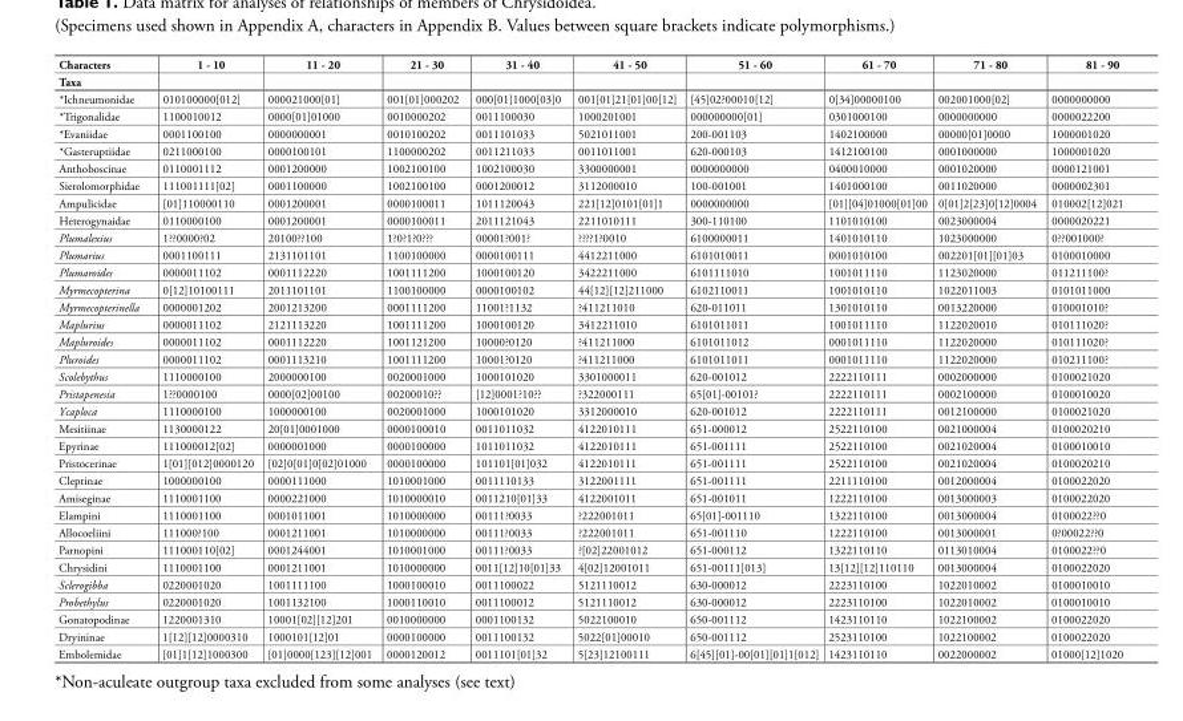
<table><tbody><tr><td>Characters</td><td>1 - 10</td><td>11 - 20</td><td>21 - 30</td><td>31 - 40</td><td>41 - 50</td><td>51 - 60</td><td>61 - 70</td><td>71 - 80</td><td>81 - 90</td></tr><tr><td colspan="10">Taxa</td></tr><tr><td>*Ichneumonidae</td><td>010100000[012]</td><td>000021000[01]</td><td>001[01]000202</td><td>000[01]1000[03]0</td><td>001[01]21[01]00[12]</td><td>[45]02?00010[12]</td><td>0[34]00000100</td><td>002001000[02]</td><td>0000000000</td></tr><tr><td>*Trigonalidae</td><td>1100010012</td><td>0000[01]01000</td><td>0010000202</td><td>0011100030</td><td>1000201001</td><td>000000000[01]</td><td>0301000100</td><td>0000000000</td><td>0000022200</td></tr><tr><td>*Evaniidae</td><td>0001100100</td><td>0000000001</td><td>0010100202</td><td>0011101033</td><td>5021011001</td><td>200-001103</td><td>1402100000</td><td>00000[01]0000</td><td>1000001020</td></tr><tr><td>*Gasteruptiidae</td><td>0211000100</td><td>0000100101</td><td>1100000202</td><td>0011211033</td><td>0011011001</td><td>620-000103</td><td>1412100100</td><td>0001000000</td><td>1000001020</td></tr><tr><td>Anthoboscinae</td><td>0110001112</td><td>0001200000</td><td>1002100100</td><td>1002100030</td><td>3300000001</td><td>0000000000</td><td>0400010000</td><td>0001020000</td><td>0000121001</td></tr><tr><td>Sierolomorphidae</td><td>111001111[02]</td><td>0001100000</td><td>1002100100</td><td>0001200012</td><td>3112000010</td><td>100-001001</td><td>1401000100</td><td>0011020000</td><td>0000002301</td></tr><tr><td>Ampulicidae</td><td>[01]110000110</td><td>0001200001</td><td>0000100011</td><td>1011120043</td><td>221[12]0101[01]1</td><td>0000000000</td><td>[01][04]01000[01]00</td><td>0[01]2[23]0[12]0004</td><td>010002[12]021</td></tr><tr><td>Heterogynaidae</td><td>0110000100</td><td>0001200001</td><td>0000100011</td><td>2011121043</td><td>2211010111</td><td>300-110100</td><td>1101010100</td><td>0023000004</td><td>0000020221</td></tr><tr><td>Plumalexius</td><td>1??0000?02</td><td>20100??100</td><td>1?0?1?0???</td><td>00001?001?</td><td>????1?0010</td><td>6100000011</td><td>1401010110</td><td>1023000000</td><td>0??001000?</td></tr><tr><td>Plumarius</td><td>0001100111</td><td>2131101101</td><td>1100100000</td><td>0000100111</td><td>4412211000</td><td>6101010011</td><td>0001010100</td><td>002201[01][01]03</td><td>0100010000</td></tr><tr><td>Plumaroides</td><td>0000011102</td><td>0001112220</td><td>1001111200</td><td>1000100120</td><td>3422211000</td><td>6101111010</td><td>1001011110</td><td>1123020000</td><td>011211100?</td></tr><tr><td>Myrmecopterina</td><td>0[12]10100111</td><td>2011101101</td><td>1100100000</td><td>0000100102</td><td>44[12][12]211000</td><td>6102110011</td><td>1001010110</td><td>1022011003</td><td>0101011000</td></tr><tr><td>Myrmecopterinella</td><td>0000001202</td><td>2001213200</td><td>0001111200</td><td>11001?1132</td><td>?411211010</td><td>620-011011</td><td>1301010110</td><td>0013220000</td><td>010001010?</td></tr><tr><td>Maplurius</td><td>0000011102</td><td>2121113220</td><td>1001111200</td><td>1000100120</td><td>3412211010</td><td>6101011011</td><td>1001011110</td><td>1122020010</td><td>010111020?</td></tr><tr><td>Mapluroides</td><td>0000011102</td><td>0001112220</td><td>1001121200</td><td>10000?0120</td><td>?411211000</td><td>6101011012</td><td>0001011110</td><td>1122020000</td><td>010111020?</td></tr><tr><td>Pluroides</td><td>0000011102</td><td>0001113210</td><td>1001111200</td><td>10001?0120</td><td>?411211000</td><td>6101011011</td><td>0001011110</td><td>1122020000</td><td>010211100?</td></tr><tr><td>Scolebythus</td><td>1110000100</td><td>2000000100</td><td>0020001000</td><td>1000101020</td><td>3301000011</td><td>620-001012</td><td>2222110111</td><td>0002000000</td><td>0100021020</td></tr><tr><td>Pristapenesia</td><td>1??0000100</td><td>0000[02]00100</td><td>00200010??</td><td>[12]0001?10??</td><td>?322000111</td><td>65[01]-00101?</td><td>2222110111</td><td>0002100000</td><td>0100010020</td></tr><tr><td>Ycaploca</td><td>1110000100</td><td>1000000100</td><td>0020001000</td><td>1000101020</td><td>3312000010</td><td>620-001012</td><td>2222110111</td><td>0012100000</td><td>0100021020</td></tr><tr><td>Mesitiinae</td><td>1130000122</td><td>20[01]0001000</td><td>0000100010</td><td>0011011032</td><td>4122010111</td><td>651-000012</td><td>2522110100</td><td>0021000004</td><td>0100020210</td></tr><tr><td>Epyrinae</td><td>111000012[02]</td><td>0000001000</td><td>0000100000</td><td>1011011032</td><td>4122010111</td><td>651-001111</td><td>2522110100</td><td>0021020004</td><td>0100010010</td></tr><tr><td>Pristocerinae</td><td>1[01][012]0000120</td><td>[02]0[01]0[02]01000</td><td>0000100000</td><td>101101[01]032</td><td>4122010111</td><td>651-001111</td><td>2522110100</td><td>0021020004</td><td>0100020210</td></tr><tr><td>Cleptinae</td><td>1000000100</td><td>0000111000</td><td>1010001000</td><td>0011110133</td><td>3122001111</td><td>651-001111</td><td>2211110100</td><td>0012000004</td><td>0100022020</td></tr><tr><td>Amiseginae</td><td>1110001100</td><td>0000221000</td><td>1010000010</td><td>0011210[01]33</td><td>4122001011</td><td>651-001011</td><td>1222110100</td><td>0013000003</td><td>0100022020</td></tr><tr><td>Elampini</td><td>1110001100</td><td>0001011001</td><td>1010000000</td><td>00111?0033</td><td>?222001011</td><td>65[01]-001110</td><td>1322110100</td><td>0013000004</td><td>0100022??0</td></tr><tr><td>Allocoeliini</td><td>111000?100</td><td>0001211001</td><td>1010000000</td><td>00111?0033</td><td>?222001011</td><td>651-001110</td><td>1222110100</td><td>0013000001</td><td>0?00022??0</td></tr><tr><td>Parnopini</td><td>111000110[02]</td><td>0001244001</td><td>1010001000</td><td>00111?0033</td><td>?[02]22001012</td><td>651-000112</td><td>1322110110</td><td>0113010004</td><td>0100022??0</td></tr><tr><td>Chrysidini</td><td>1110001100</td><td>0001211001</td><td>1010000000</td><td>0011[12]10[01]33</td><td>4[02]12001011</td><td>651-00111[013]</td><td>13[12][12]110110</td><td>0013000004</td><td>0100022020</td></tr><tr><td>Sclerogibba</td><td>0220001020</td><td>1001111100</td><td>1000100010</td><td>0011100022</td><td>5121110012</td><td>630-000012</td><td>2223110100</td><td>1022010002</td><td>0100010010</td></tr><tr><td>Probethylus</td><td>0220001020</td><td>1001132100</td><td>1000110010</td><td>0011100012</td><td>5121110012</td><td>630-000012</td><td>2223110100</td><td>1022010002</td><td>0100010010</td></tr><tr><td>Gonatopodinae</td><td>1220001310</td><td>10001[02][12]201</td><td>0010000000</td><td>0001100132</td><td>5022100010</td><td>650-001112</td><td>1423110110</td><td>1022100002</td><td>0100022020</td></tr><tr><td>Dryininae</td><td>1[12][12]0000310</td><td>1000101[12]01</td><td>0000100000</td><td>0011100132</td><td>5022[01]00010</td><td>650-001112</td><td>2523110100</td><td>1022100002</td><td>0100022020</td></tr><tr><td>Embolemidae</td><td>[01]1[12]1000300</td><td>[01]0000[123][12]001</td><td>0000120012</td><td>0011101[01]32</td><td>5[23]12100111</td><td>6[45][01]-00[01][01]1[012]</td><td>1423110110</td><td>0022000002</td><td>01000[12]1020</td></tr></tbody></table>